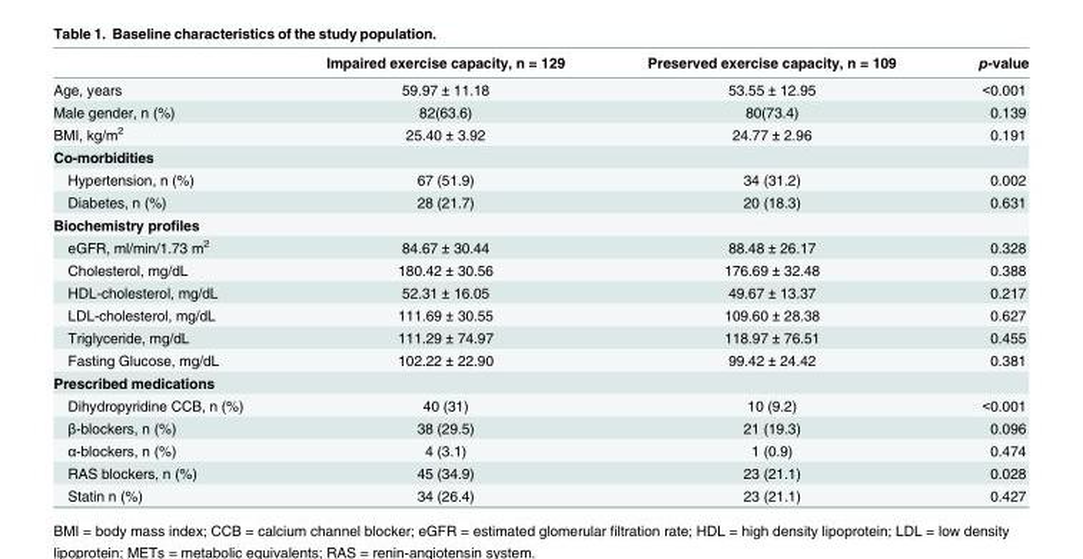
<table><thead><tr><td></td><td>Impaired exercise capacity, n = 129</td><td>Preserved exercise capacity, n = 109</td><td>p-value</td></tr></thead><tbody><tr><td>Age, years</td><td>59.97 ± 11.18</td><td>53.55 ± 12.95</td><td>&lt;0.001</td></tr><tr><td>Male gender, n (%)</td><td>82(63.6)</td><td>80(73.4)</td><td>0.139</td></tr><tr><td>BMI, kg/m<sup>2</sup></td><td>25.40 ± 3.92</td><td>24.77 ± 2.96</td><td>0.191</td></tr><tr><td colspan="4">Co-morbidities</td></tr><tr><td>Hypertension, n (%)</td><td>67 (51.9)</td><td>34 (31.2)</td><td>0.002</td></tr><tr><td>Diabetes, n (%)</td><td>28 (21.7)</td><td>20 (18.3)</td><td>0.631</td></tr><tr><td colspan="4">Biochemistry profiles</td></tr><tr><td>eGFR, ml/min/1.73 m<sup>2</sup></td><td>84.67 ± 30.44</td><td>88.48 ± 26.17</td><td>0.328</td></tr><tr><td>Cholesterol, mg/dL</td><td>180.42 ± 30.56</td><td>176.69 ± 32.48</td><td>0.388</td></tr><tr><td>HDL-cholesterol, mg/dL</td><td>52.31 ± 16.05</td><td>49.67 ± 13.37</td><td>0.217</td></tr><tr><td>LDL-cholesterol, mg/dL</td><td>111.69 ± 30.55</td><td>109.60 ± 28.38</td><td>0.627</td></tr><tr><td>Triglyceride, mg/dL</td><td>111.29 ± 74.97</td><td>118.97 ± 76.51</td><td>0.455</td></tr><tr><td>Fasting Glucose, mg/dL</td><td>102.22 ± 22.90</td><td>99.42 ± 24.42</td><td>0.381</td></tr><tr><td colspan="4">Prescribed medications</td></tr><tr><td>Dihydropyridine CCB, n (%)</td><td>40 (31)</td><td>10 (9.2)</td><td>&lt;0.001</td></tr><tr><td>β-blockers, n (%)</td><td>38 (29.5)</td><td>21 (19.3)</td><td>0.096</td></tr><tr><td>α-blockers, n (%)</td><td>4 (3.1)</td><td>1 (0.9)</td><td>0.474</td></tr><tr><td>RAS blockers, n (%)</td><td>45 (34.9)</td><td>23 (21.1)</td><td>0.028</td></tr><tr><td>Statin n (%)</td><td>34 (26.4)</td><td>23 (21.1)</td><td>0.427</td></tr></tbody></table>